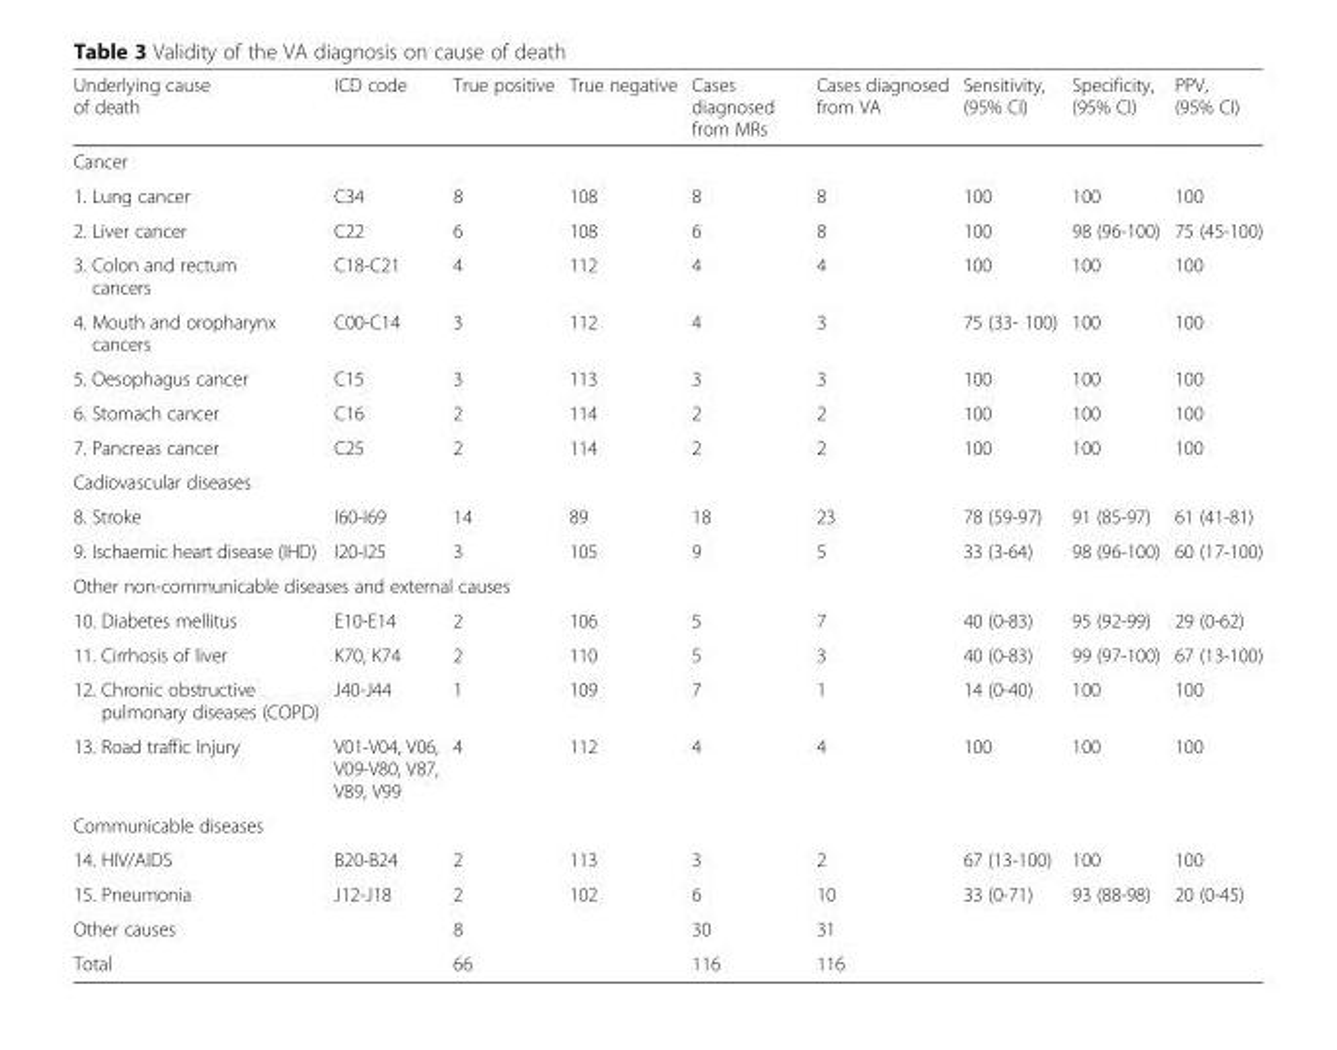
<table><thead><tr><td>Underlying cause of death</td><td>ICD code</td><td>True positive</td><td>True negative</td><td>Cases diagnosed from MRs</td><td>Cases diagnosed from VA</td><td>Sensitivity, (95% CI)</td><td>Specificity, (95% CI)</td><td>PPV, (95% CI)</td></tr></thead><tbody><tr><td colspan="9">Cancer</td></tr><tr><td>1. Lung cancer</td><td>C34</td><td>8</td><td>108</td><td>8</td><td>8</td><td>100</td><td>100</td><td>100</td></tr><tr><td>2. Liver cancer</td><td>C22</td><td>6</td><td>108</td><td>6</td><td>8</td><td>100</td><td>98 (96-100)</td><td>75 (45-100)</td></tr><tr><td>3. Colon and rectum cancers</td><td>C18-C21</td><td>4</td><td>112</td><td>4</td><td>4</td><td>100</td><td>100</td><td>100</td></tr><tr><td>4. Mouth and oropharynx cancers</td><td>C00-C14</td><td>3</td><td>112</td><td>4</td><td>3</td><td>75 (33- 100)</td><td>100</td><td>100</td></tr><tr><td>5. Oesophagus cancer</td><td>C15</td><td>3</td><td>113</td><td>3</td><td>3</td><td>100</td><td>100</td><td>100</td></tr><tr><td>6. Stomach cancer</td><td>C16</td><td>2</td><td>114</td><td>2</td><td>2</td><td>100</td><td>100</td><td>100</td></tr><tr><td>7. Pancreas cancer</td><td>C25</td><td>2</td><td>114</td><td>2</td><td>2</td><td>100</td><td>100</td><td>100</td></tr><tr><td colspan="9">Cadiovascular diseases</td></tr><tr><td>8. Stroke</td><td>I60-I69</td><td>14</td><td>89</td><td>18</td><td>23</td><td>78 (59-97)</td><td>91 (85-97)</td><td>61 (41-81)</td></tr><tr><td>9. Ischaemic heart disease (IHD)</td><td>I20-I25</td><td>3</td><td>105</td><td>9</td><td>5</td><td>33 (3-64)</td><td>98 (96-100)</td><td>60 (17-100)</td></tr><tr><td colspan="9">Other non-communicable diseases and external causes</td></tr><tr><td>10. Diabetes mellitus</td><td>E10-E14</td><td>2</td><td>106</td><td>5</td><td>7</td><td>40 (0-83)</td><td>95 (92-99)</td><td>29 (0-62)</td></tr><tr><td>11. Cirrhosis of liver</td><td>K70, K74</td><td>2</td><td>110</td><td>5</td><td>3</td><td>40 (0-83)</td><td>99 (97-100)</td><td>67 (13-100)</td></tr><tr><td>12. Chronic obstructive pulmonary diseases (COPD)</td><td>J40-J44</td><td>1</td><td>109</td><td>7</td><td>1</td><td>14 (0-40)</td><td>100</td><td>100</td></tr><tr><td>13. Road traffic Injury</td><td>V01-V04, V06, V09-V80, V87, V89, V99</td><td>4</td><td>112</td><td>4</td><td>4</td><td>100</td><td>100</td><td>100</td></tr><tr><td colspan="9">Communicable diseases</td></tr><tr><td>14. HIV/AIDS</td><td>B20-B24</td><td>2</td><td>113</td><td>3</td><td>2</td><td>67 (13-100)</td><td>100</td><td>100</td></tr><tr><td>15. Pneumonia</td><td>J12-J18</td><td>2</td><td>102</td><td>6</td><td>10</td><td>33 (0-71)</td><td>93 (88-98)</td><td>20 (0-45)</td></tr><tr><td>Other causes</td><td></td><td>8</td><td></td><td>30</td><td>31</td><td></td><td></td><td></td></tr><tr><td>Total</td><td></td><td>66</td><td></td><td>116</td><td>116</td><td></td><td></td><td></td></tr></tbody></table>